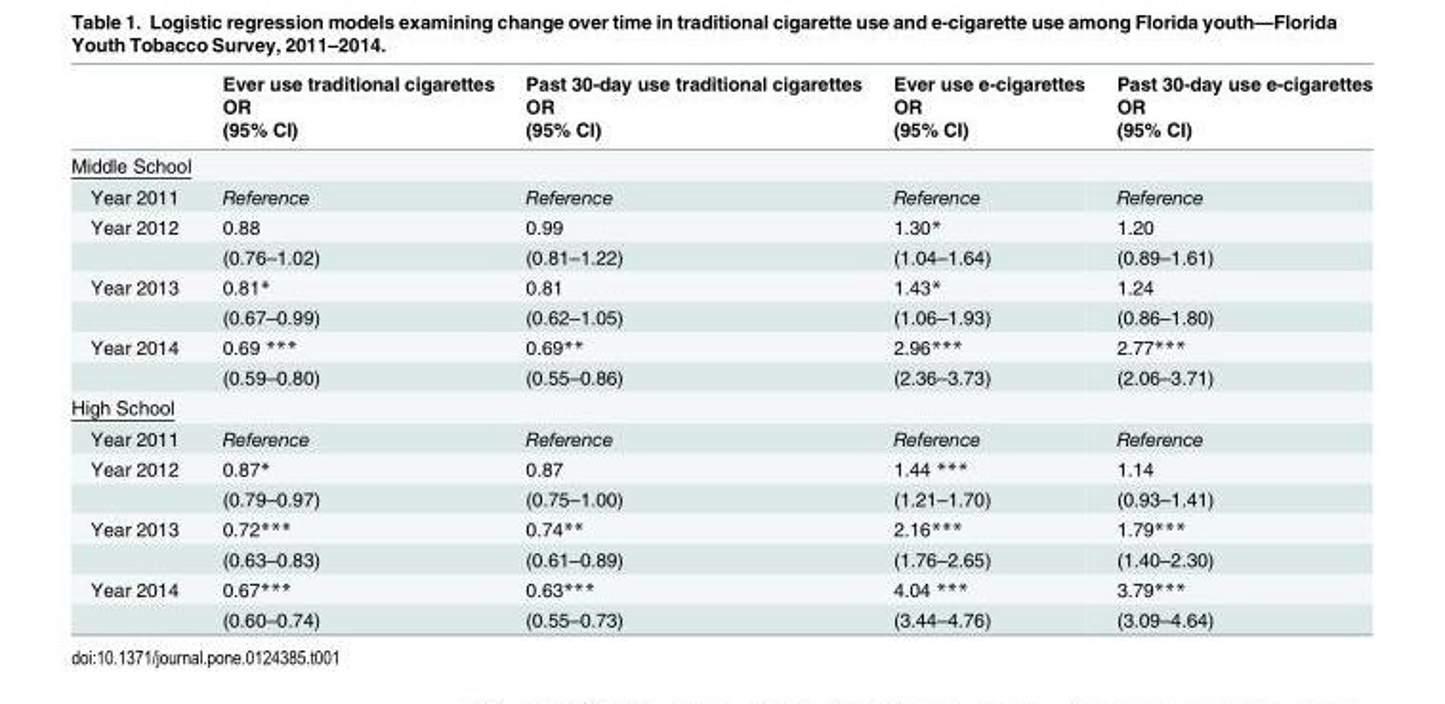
<table><thead><tr><td rowspan="3"></td><td rowspan="3">Ever use traditional cigarettes OR (95% CI)</td><td rowspan="3">Past 30-day use traditional cigarettes OR (95% CI)</td><td rowspan="3">Ever use e-cigarettes OR (95% CI)</td><td rowspan="3">Past 30-day use e-cigarettes OR (95% CI)</td></tr><tr></tr><tr></tr></thead><tbody><tr><td colspan="5">Middle School</td></tr><tr><td>Year 2011</td><td>Reference</td><td>Reference</td><td>Reference</td><td>Reference</td></tr><tr><td rowspan="2">Year 2012</td><td>0.88</td><td>0.99</td><td>1.30*</td><td>1.20</td></tr><tr><td>(0.76–1.02)</td><td>(0.81–1.22)</td><td>(1.04–1.64)</td><td>(0.89–1.61)</td></tr><tr><td rowspan="2">Year 2013</td><td>0.81*</td><td>0.81</td><td>1.43*</td><td>1.24</td></tr><tr><td>(0.67–0.99)</td><td>(0.62–1.05)</td><td>(1.06–1.93)</td><td>(0.86–1.80)</td></tr><tr><td rowspan="2">Year 2014</td><td>0.69 ***</td><td>0.69**</td><td>2.96***</td><td>2.77***</td></tr><tr><td>(0.59–0.80)</td><td>(0.55–0.86)</td><td>(2.36–3.73)</td><td>(2.06–3.71)</td></tr><tr><td colspan="5">High School</td></tr><tr><td>Year 2011</td><td>Reference</td><td>Reference</td><td>Reference</td><td>Reference</td></tr><tr><td rowspan="2">Year 2012</td><td>0.87*</td><td>0.87</td><td>1.44 ***</td><td>1.14</td></tr><tr><td>(0.79–0.97)</td><td>(0.75–1.00)</td><td>(1.21–1.70)</td><td>(0.93–1.41)</td></tr><tr><td rowspan="2">Year 2013</td><td>0.72***</td><td>0.74**</td><td>2.16***</td><td>1.79***</td></tr><tr><td>(0.63–0.83)</td><td>(0.61–0.89)</td><td>(1.76–2.65)</td><td>(1.40–2.30)</td></tr><tr><td rowspan="2">Year 2014</td><td>0.67***</td><td>0.63***</td><td>4.04 ***</td><td>3.79***</td></tr><tr><td>(0.60–0.74)</td><td>(0.55–0.73)</td><td>(3.44–4.76)</td><td>(3.09–4.64)</td></tr></tbody></table>